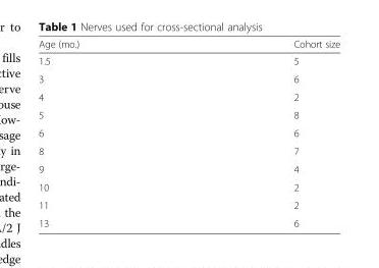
<table><thead><tr><td>Age (mo.)</td><td>Cohort size</td></tr></thead><tbody><tr><td>1.5</td><td>5</td></tr><tr><td>3</td><td>6</td></tr><tr><td>4</td><td>2</td></tr><tr><td>5</td><td>8</td></tr><tr><td>6</td><td>6</td></tr><tr><td>8</td><td>7</td></tr><tr><td>9</td><td>4</td></tr><tr><td>10</td><td>2</td></tr><tr><td>11</td><td>2</td></tr><tr><td>13</td><td>6</td></tr></tbody></table>